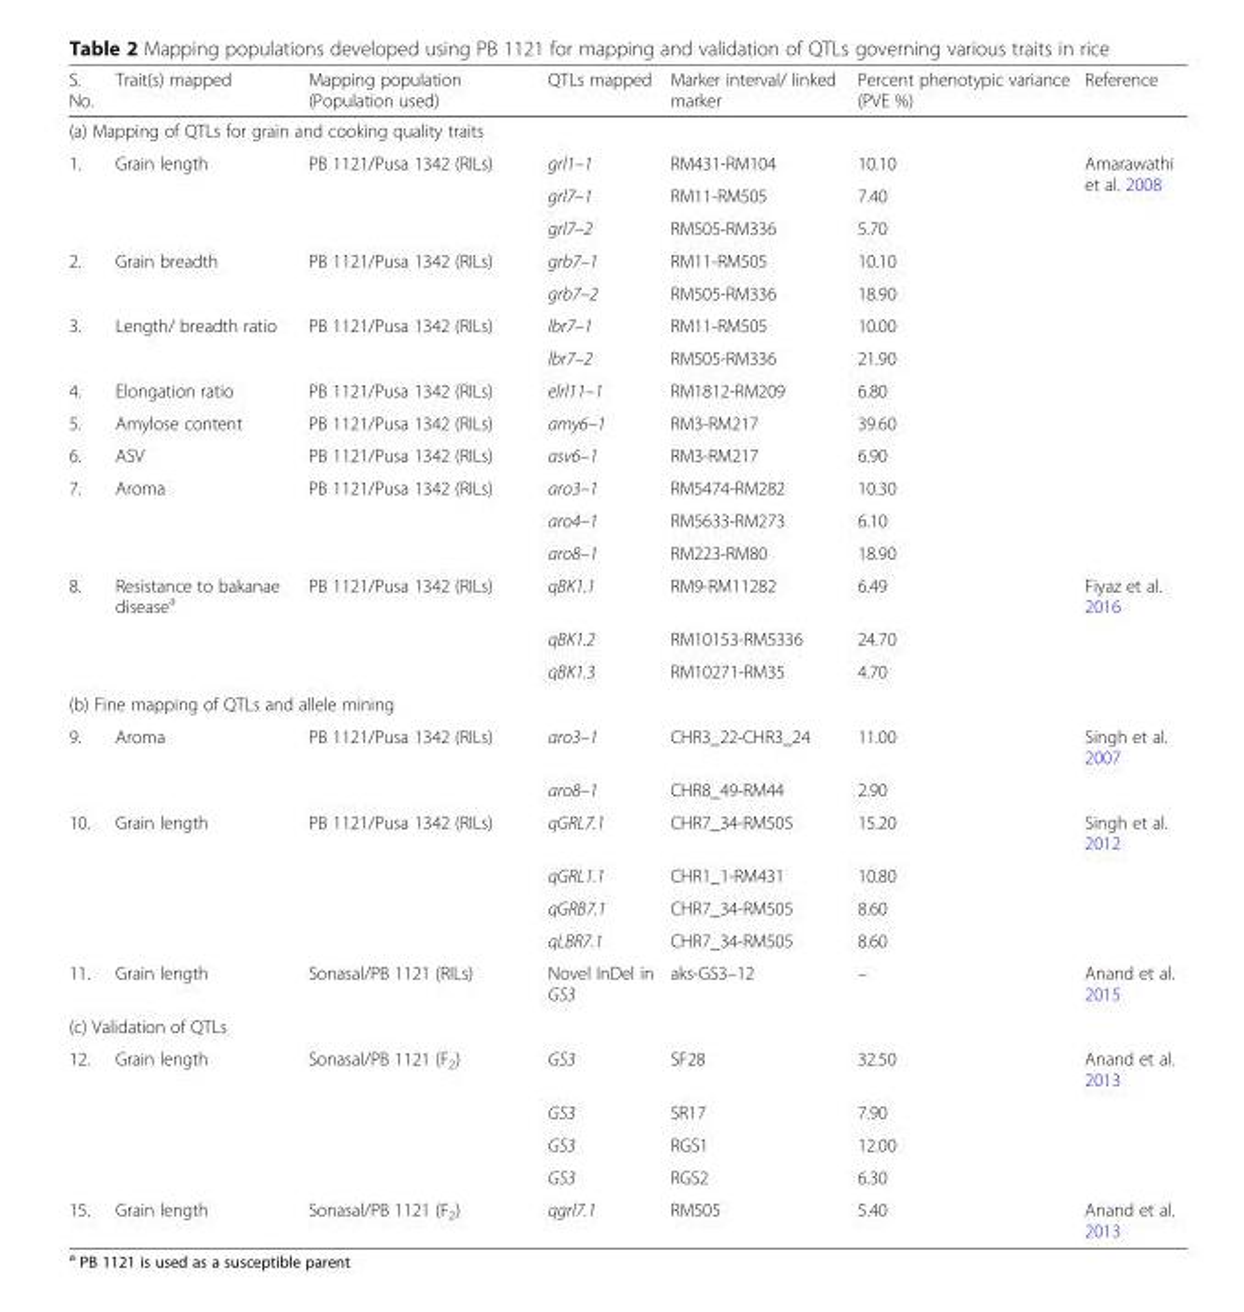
<table><thead><tr><td>S. No.</td><td>Trait(s) mapped</td><td>Mapping population (Population used)</td><td>QTLs mapped</td><td>Marker interval/ linked marker</td><td>Percent phenotypic variance (PVE %)</td><td>Reference</td></tr></thead><tbody><tr><td colspan="7">(a) Mapping of QTLs for grain and cooking quality traits</td></tr><tr><td rowspan="3">1.</td><td>Grain length</td><td>PB 1121/Pusa 1342 (RILs)</td><td>grl1–1</td><td>RM431-RM104</td><td>10.10</td><td rowspan="11">Amarawathi et al. 2008</td></tr><tr><td></td><td></td><td>grl7–1</td><td>RM11-RM505</td><td>7.40</td></tr><tr><td></td><td></td><td>grl7–2</td><td>RM505-RM336</td><td>5.70</td></tr><tr><td rowspan="2">2.</td><td>Grain breadth</td><td>PB 1121/Pusa 1342 (RILs)</td><td>grb7–1</td><td>RM11-RM505</td><td>10.10</td></tr><tr><td></td><td></td><td>grb7–2</td><td>RM505-RM336</td><td>18.90</td></tr><tr><td rowspan="2">3.</td><td>Length/ breadth ratio</td><td>PB 1121/Pusa 1342 (RILs)</td><td>lbr7–1</td><td>RM11-RM505</td><td>10.00</td></tr><tr><td></td><td></td><td>lbr7–2</td><td>RM505-RM336</td><td>21.90</td></tr><tr><td>4.</td><td>Elongation ratio</td><td>PB 1121/Pusa 1342 (RILs)</td><td>elrl11–1</td><td>RM1812-RM209</td><td>6.80</td></tr><tr><td>5.</td><td>Amylose content</td><td>PB 1121/Pusa 1342 (RILs)</td><td>amy6–1</td><td>RM3-RM217</td><td>39.60</td></tr><tr><td>6.</td><td>ASV</td><td>PB 1121/Pusa 1342 (RILs)</td><td>asv6–1</td><td>RM3-RM217</td><td>6.90</td></tr><tr><td rowspan="3">7.</td><td>Aroma</td><td>PB 1121/Pusa 1342 (RILs)</td><td>aro3–1</td><td>RM5474-RM282</td><td>10.30</td></tr><tr><td></td><td></td><td>aro4–1</td><td>RM5633-RM273</td><td>6.10</td><td></td></tr><tr><td></td><td></td><td>aro8–1</td><td>RM223-RM80</td><td>18.90</td><td></td></tr><tr><td rowspan="3">8.</td><td>Resistance to bakanae disease<sup>a</sup></td><td>PB 1121/Pusa 1342 (RILs)</td><td>qBK1.1</td><td>RM9-RM11282</td><td>6.49</td><td>Fiyaz et al. 2016</td></tr><tr><td></td><td></td><td>qBK1.2</td><td>RM10153-RM5336</td><td>24.70</td><td></td></tr><tr><td></td><td></td><td>qBK1.3</td><td>RM10271-RM35</td><td>4.70</td><td></td></tr><tr><td colspan="7">(b) Fine mapping of QTLs and allele mining</td></tr><tr><td rowspan="2">9.</td><td>Aroma</td><td>PB 1121/Pusa 1342 (RILs)</td><td>aro3–1</td><td>CHR3_22-CHR3_24</td><td>11.00</td><td>Singh et al. 2007</td></tr><tr><td></td><td></td><td>aro8–1</td><td>CHR8_49-RM44</td><td>2.90</td><td></td></tr><tr><td rowspan="4">10.</td><td>Grain length</td><td>PB 1121/Pusa 1342 (RILs)</td><td>qGRL7.1</td><td>CHR7_34-RM505</td><td>15.20</td><td>Singh et al. 2012</td></tr><tr><td></td><td></td><td>qGRL1.1</td><td>CHR1_1-RM431</td><td>10.80</td><td></td></tr><tr><td></td><td></td><td>qGRB7.1</td><td>CHR7_34-RM505</td><td>8.60</td><td></td></tr><tr><td></td><td></td><td>qLBR7.1</td><td>CHR7_34-RM505</td><td>8.60</td><td></td></tr><tr><td>11.</td><td>Grain length</td><td>Sonasal/PB 1121 (RILs)</td><td>Novel InDel in GS3</td><td>aks-GS3–12</td><td>–</td><td>Anand et al. 2015</td></tr><tr><td colspan="7">(c) Validation of QTLs</td></tr><tr><td rowspan="4">12.</td><td>Grain length</td><td>Sonasal/PB 1121 (F<sub>2</sub>)</td><td>GS3</td><td>SF28</td><td>32.50</td><td>Anand et al. 2013</td></tr><tr><td></td><td></td><td>GS3</td><td>SR17</td><td>7.90</td><td></td></tr><tr><td></td><td></td><td>GS3</td><td>RGS1</td><td>12.00</td><td></td></tr><tr><td></td><td></td><td>GS3</td><td>RGS2</td><td>6.30</td><td></td></tr><tr><td>15.</td><td>Grain length</td><td>Sonasal/PB 1121 (F<sub>2</sub>)</td><td>qgrl7.1</td><td>RM505</td><td>5.40</td><td>Anand et al. 2013</td></tr></tbody></table>